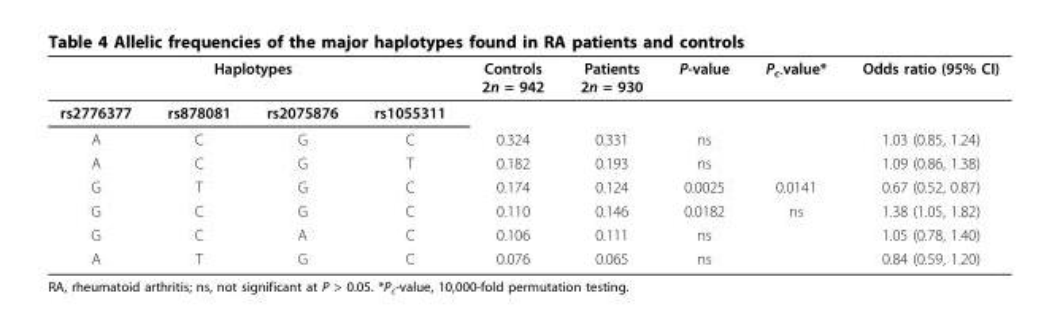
<table><thead><tr><td colspan="4">Haplotypes</td><td rowspan="2">Controls 2n = 942</td><td rowspan="2">Patients 2n = 930</td><td rowspan="2">P-value</td><td rowspan="2">P<sub>c-</sub>value*</td><td rowspan="2">Odds ratio (95% CI)</td></tr><tr><td>rs2776377</td><td>rs878081</td><td>rs2075876</td><td>rs1055311</td></tr></thead><tbody><tr><td>A</td><td>C</td><td>G</td><td>C</td><td>0.324</td><td>0.331</td><td>ns</td><td></td><td>1.03 (0.85, 1.24)</td></tr><tr><td>A</td><td>C</td><td>G</td><td>T</td><td>0.182</td><td>0.193</td><td>ns</td><td></td><td>1.09 (0.86, 1.38)</td></tr><tr><td>G</td><td>T</td><td>G</td><td>C</td><td>0.174</td><td>0.124</td><td>0.0025</td><td>0.0141</td><td>0.67 (0.52, 0.87)</td></tr><tr><td>G</td><td>C</td><td>G</td><td>C</td><td>0.110</td><td>0.146</td><td>0.0182</td><td>ns</td><td>1.38 (1.05, 1.82)</td></tr><tr><td>G</td><td>C</td><td>A</td><td>C</td><td>0.106</td><td>0.111</td><td>ns</td><td></td><td>1.05 (0.78, 1.40)</td></tr><tr><td>A</td><td>T</td><td>G</td><td>C</td><td>0.076</td><td>0.065</td><td>ns</td><td></td><td>0.84 (0.59, 1.20)</td></tr></tbody></table>